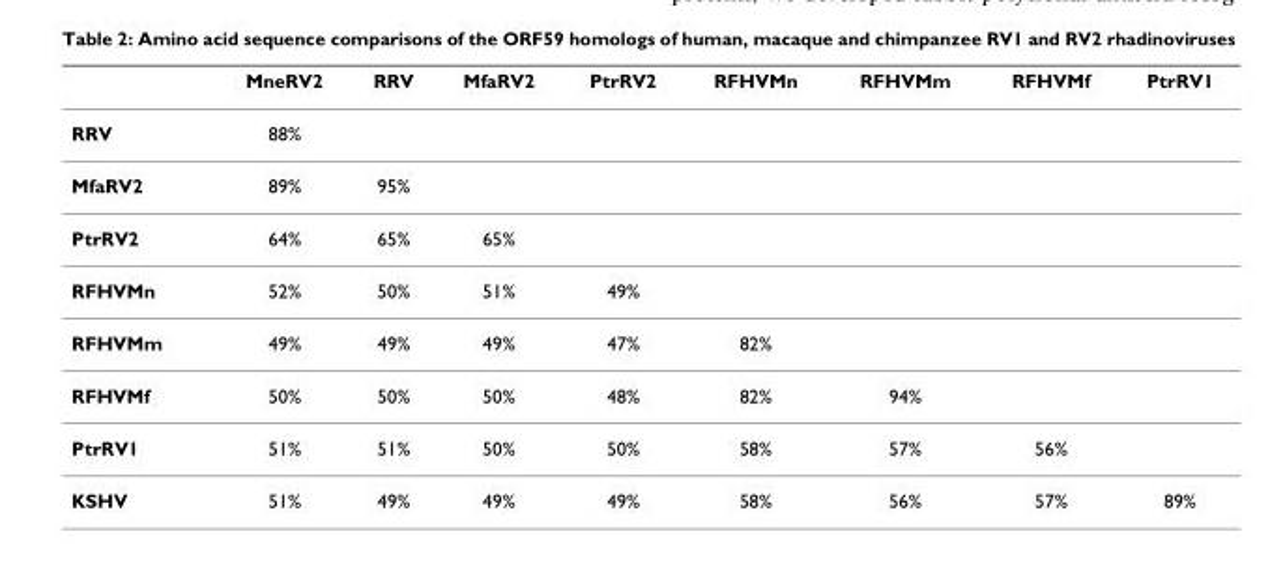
<table><thead><tr><td></td><td>MneRV2</td><td>RRV</td><td>MfaRV2</td><td>PtrRV2</td><td>RFHVMn</td><td>RFHVMm</td><td>RFHVMf</td><td>PtrRV1</td></tr></thead><tbody><tr><td>RRV</td><td>88%</td><td></td><td></td><td></td><td></td><td></td><td></td><td></td></tr><tr><td>MfaRV2</td><td>89%</td><td>95%</td><td></td><td></td><td></td><td></td><td></td><td></td></tr><tr><td>PtrRV2</td><td>64%</td><td>65%</td><td>65%</td><td></td><td></td><td></td><td></td><td></td></tr><tr><td>RFHVMn</td><td>52%</td><td>50%</td><td>51%</td><td>49%</td><td></td><td></td><td></td><td></td></tr><tr><td>RFHVMm</td><td>49%</td><td>49%</td><td>49%</td><td>47%</td><td>82%</td><td></td><td></td><td></td></tr><tr><td>RFHVMf</td><td>50%</td><td>50%</td><td>50%</td><td>48%</td><td>82%</td><td>94%</td><td></td><td></td></tr><tr><td>PtrRV1</td><td>51%</td><td>51%</td><td>50%</td><td>50%</td><td>58%</td><td>57%</td><td>56%</td><td></td></tr><tr><td>KSHV</td><td>51%</td><td>49%</td><td>49%</td><td>49%</td><td>58%</td><td>56%</td><td>57%</td><td>89%</td></tr></tbody></table>